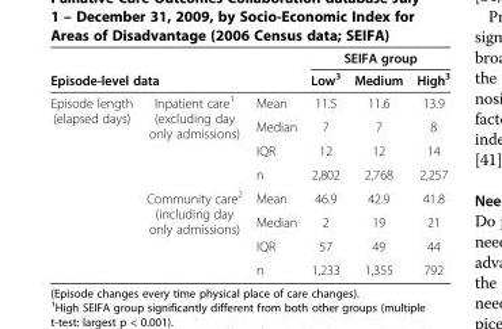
<table><thead><tr><td></td><td></td><td rowspan="2"></td><td colspan="3">SEIFA group</td></tr><tr><td colspan="2">Episode-level data</td><td>Low<sup>3</sup></td><td>Medium</td><td>High<sup>3</sup></td></tr></thead><tbody><tr><td rowspan="8">Episode length (elapsed days)</td><td rowspan="4">Inpatient care<sup>1</sup> (excluding day only admissions)</td><td>Mean</td><td>11.5</td><td>11.6</td><td>13.9</td></tr><tr><td>Median</td><td>7</td><td>7</td><td>8</td></tr><tr><td>IQR</td><td>12</td><td>12</td><td>14</td></tr><tr><td>n</td><td>2,802</td><td>2,768</td><td>2,257</td></tr><tr><td rowspan="3">Community care<sup>2</sup> (including day only admissions)</td><td>Mean</td><td>46.9</td><td>42.9</td><td>41.8</td></tr><tr><td>Median</td><td>2</td><td>19</td><td>21</td></tr><tr><td>IQR</td><td>57</td><td>49</td><td>44</td></tr><tr><td></td><td>n</td><td>1,233</td><td>1,355</td><td>792</td></tr></tbody></table>